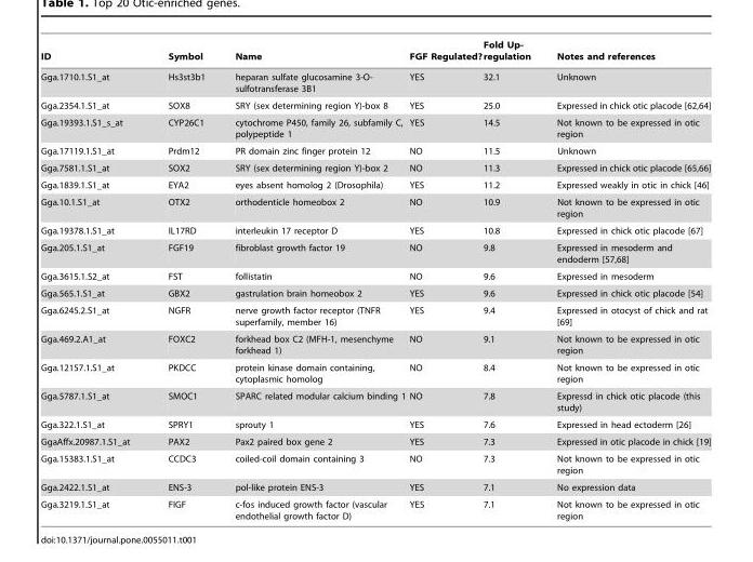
<table><thead><tr><td>ID</td><td>Symbol</td><td>Name</td><td>FGF Regulated?</td><td>Fold Up- regulation</td><td>Notes and references</td></tr></thead><tbody><tr><td>Gga.1710.1.S1_at</td><td>Hs3st3b1</td><td>heparan sulfate glucosamine 3-O- sulfotransferase 3B1</td><td>YES</td><td>32.1</td><td>Unknown</td></tr><tr><td>Gga.2354.1.S1_at</td><td>SOX8</td><td>SRY (sex determining region Y)-box 8</td><td>YES</td><td>25.0</td><td>Expressed in chick otic placode [62,64]</td></tr><tr><td>Gga.19393.1.S1_s_at</td><td>CYP26C1</td><td>cytochrome P450, family 26, subfamily C, polypeptide 1</td><td>YES</td><td>14.5</td><td>Not known to be expressed in otic region</td></tr><tr><td>Gga.17119.1.S1_at</td><td>Prdm12</td><td>PR domain zinc finger protein 12</td><td>NO</td><td>11.5</td><td>Unknown</td></tr><tr><td>Gga.7581.1.S1_at</td><td>SOX2</td><td>SRY (sex determining region Y)-box 2</td><td>NO</td><td>11.3</td><td>Expressed in chick otic placode [65,66]</td></tr><tr><td>Gga.1839.1.S1_at</td><td>EYA2</td><td>eyes absent homolog 2 (Drosophila)</td><td>YES</td><td>11.2</td><td>Expressed weakly in otic in chick [46]</td></tr><tr><td>Gga.10.1.S1_at</td><td>OTX2</td><td>orthodenticle homeobox 2</td><td>NO</td><td>10.9</td><td>Not known to be expressed in otic region</td></tr><tr><td>Gga.19378.1.S1_at</td><td>IL17RD</td><td>interleukin 17 receptor D</td><td>YES</td><td>10.8</td><td>Expressed in chick otic placode [67]</td></tr><tr><td>Gga.205.1.S1_at</td><td>FGF19</td><td>fibroblast growth factor 19</td><td>NO</td><td>9.8</td><td>Expressed in mesoderm and endoderm [57,68]</td></tr><tr><td>Gga.3615.1.S2_at</td><td>FST</td><td>follistatin</td><td>NO</td><td>9.6</td><td>Expressed in mesoderm</td></tr><tr><td>Gga.565.1.S1_at</td><td>GBX2</td><td>gastrulation brain homeobox 2</td><td>YES</td><td>9.6</td><td>Expressed in chick otic placode [54]</td></tr><tr><td>Gga.6245.2.S1_at</td><td>NGFR</td><td>nerve growth factor receptor (TNFR superfamily, member 16)</td><td>YES</td><td>9.4</td><td>Expressed in otocyst of chick and rat [69]</td></tr><tr><td>Gga.469.2.A1_at</td><td>FOXC2</td><td>forkhead box C2 (MFH-1, mesenchyme forkhead 1)</td><td>NO</td><td>9.1</td><td>Not known to be expressed in otic region</td></tr><tr><td>Gga.12157.1.S1_at</td><td>PKDCC</td><td>protein kinase domain containing, cytoplasmic homolog</td><td>NO</td><td>8.4</td><td>Not known to be expressed in otic region</td></tr><tr><td>Gga.5787.1.S1_at</td><td>SMOC1</td><td>SPARC related modular calcium binding 1</td><td>NO</td><td>7.8</td><td>Expressd in chick otic placode (this study)</td></tr><tr><td>Gga.322.1.S1_at</td><td>SPRY1</td><td>sprouty 1</td><td>YES</td><td>7.6</td><td>Expressed in head ectoderm [26]</td></tr><tr><td>GgaAffx.20987.1.S1_at</td><td>PAX2</td><td>Pax2 paired box gene 2</td><td>YES</td><td>7.3</td><td>Expressed in otic placode in chick [19]</td></tr><tr><td>Gga.15383.1.S1_at</td><td>CCDC3</td><td>coiled-coil domain containing 3</td><td>NO</td><td>7.3</td><td>Not known to be expressed in otic region</td></tr><tr><td>Gga.2422.1.S1_at</td><td>ENS-3</td><td>pol-like protein ENS-3</td><td>YES</td><td>7.1</td><td>No expression data</td></tr><tr><td>Gga.3219.1.S1_at</td><td>FIGF</td><td>c-fos induced growth factor (vascular endothelial growth factor D)</td><td>YES</td><td>7.1</td><td>Not known to be expressed in otic region</td></tr></tbody></table>